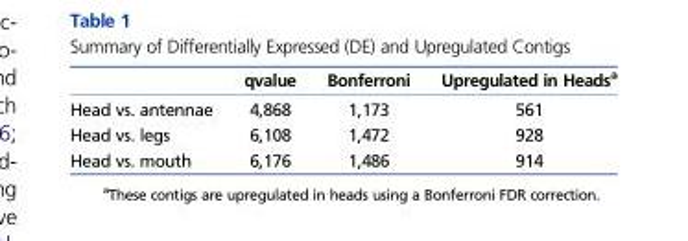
<table><thead><tr><td></td><td>qvalue</td><td>Bonferroni</td><td>Upregulated in Heads<sup>a</sup></td></tr></thead><tbody><tr><td>Head vs. antennae</td><td>4,868</td><td>1,173</td><td>561</td></tr><tr><td>Head vs. legs</td><td>6,108</td><td>1,472</td><td>928</td></tr><tr><td>Head vs. mouth</td><td>6,176</td><td>1,486</td><td>914</td></tr></tbody></table>